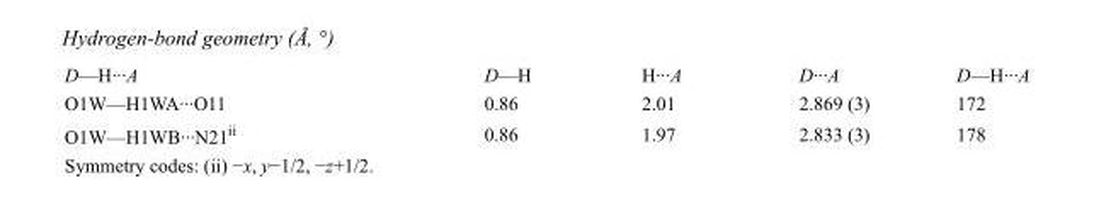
<table><tbody><tr><td>D—H···A</td><td>D—H</td><td>H···A</td><td>D···A</td><td>D—H···A</td></tr><tr><td>O1W—H1WA···O11</td><td>0.86</td><td>2.01</td><td>2.869 (3)</td><td>172</td></tr><tr><td>O1W—H1WB···N21<sup>ii</sup></td><td>0.86</td><td>1.97</td><td>2.833 (3)</td><td>178</td></tr></tbody></table>